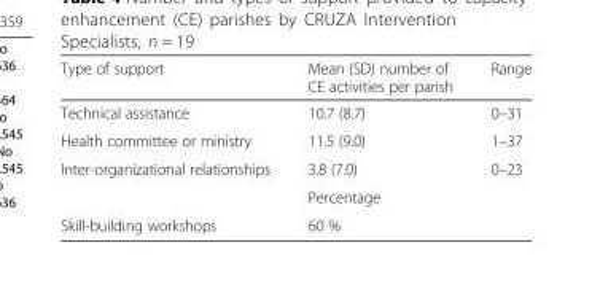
<table><thead><tr><td>Type of support</td><td>Mean (SD) number of CE activities per parish</td><td>Range</td></tr></thead><tbody><tr><td>Technical assistance</td><td>10.7 (8.7)</td><td>0–31</td></tr><tr><td>Health committee or ministry</td><td>11.5 (9.0)</td><td>1–37</td></tr><tr><td rowspan="2">Inter-organizational relationships</td><td>3.8 (7.0)</td><td>0–23</td></tr><tr><td>Percentage</td><td></td></tr><tr><td>Skill-building workshops</td><td>60 %</td><td></td></tr></tbody></table>